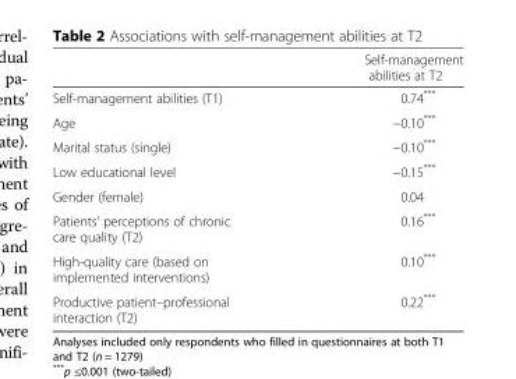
<table><thead><tr><td></td><td>Self-management abilities at T2</td></tr></thead><tbody><tr><td>Self-management abilities (T1)</td><td>0.74***</td></tr><tr><td>Age</td><td>−0.10***</td></tr><tr><td>Marital status (single)</td><td>−0.10***</td></tr><tr><td>Low educational level</td><td>−0.15***</td></tr><tr><td>Gender (female)</td><td>0.04</td></tr><tr><td>Patients’ perceptions of chronic care quality (T2)</td><td>0.16***</td></tr><tr><td>High-quality care (based on implemented interventions)</td><td>0.10***</td></tr><tr><td>Productive patient–professional interaction (T2)</td><td>0.22***</td></tr></tbody></table>